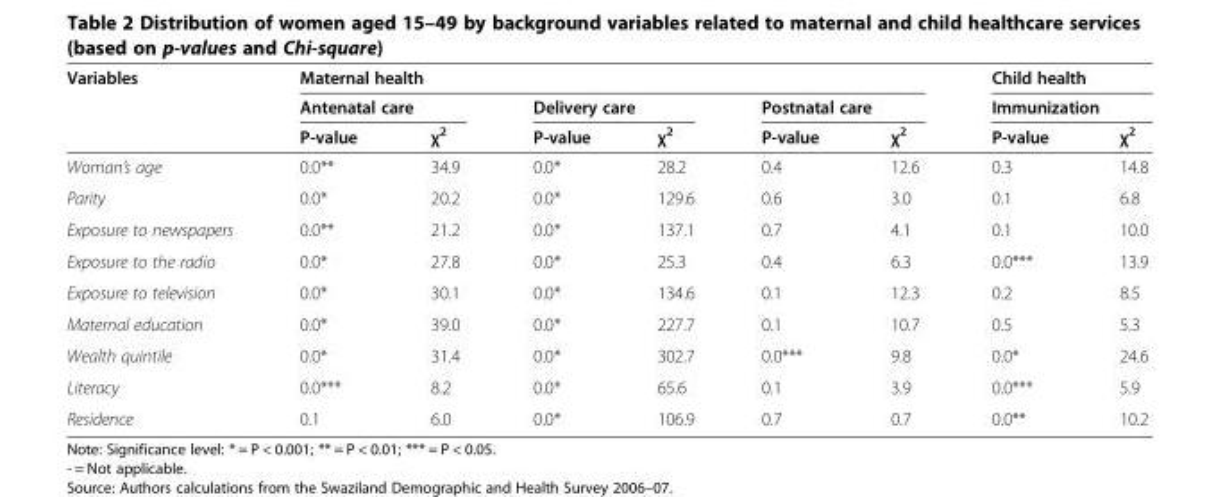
<table><thead><tr><td rowspan="3">Variables</td><td colspan="6">Maternal health</td><td rowspan="2" colspan="2">Child health Immunization</td></tr><tr><td colspan="2">Antenatal care</td><td colspan="2">Delivery care</td><td colspan="2">Postnatal care</td></tr><tr><td>P-value</td><td>χ<sup>2</sup></td><td>P-value</td><td>χ<sup>2</sup></td><td>P-value</td><td>χ<sup>2</sup></td><td>P-value</td><td>χ<sup>2</sup></td></tr></thead><tbody><tr><td>Woman’s age</td><td>0.0**</td><td>34.9</td><td>0.0*</td><td>28.2</td><td>0.4</td><td>12.6</td><td>0.3</td><td>14.8</td></tr><tr><td>Parity</td><td>0.0*</td><td>20.2</td><td>0.0*</td><td>129.6</td><td>0.6</td><td>3.0</td><td>0.1</td><td>6.8</td></tr><tr><td>Exposure to newspapers</td><td>0.0**</td><td>21.2</td><td>0.0*</td><td>137.1</td><td>0.7</td><td>4.1</td><td>0.1</td><td>10.0</td></tr><tr><td>Exposure to the radio</td><td>0.0*</td><td>27.8</td><td>0.0*</td><td>25.3</td><td>0.4</td><td>6.3</td><td>0.0***</td><td>13.9</td></tr><tr><td>Exposure to television</td><td>0.0*</td><td>30.1</td><td>0.0*</td><td>134.6</td><td>0.1</td><td>12.3</td><td>0.2</td><td>8.5</td></tr><tr><td>Maternal education</td><td>0.0*</td><td>39.0</td><td>0.0*</td><td>227.7</td><td>0.1</td><td>10.7</td><td>0.5</td><td>5.3</td></tr><tr><td>Wealth quintile</td><td>0.0*</td><td>31.4</td><td>0.0*</td><td>302.7</td><td>0.0***</td><td>9.8</td><td>0.0*</td><td>24.6</td></tr><tr><td>Literacy</td><td>0.0***</td><td>8.2</td><td>0.0*</td><td>65.6</td><td>0.1</td><td>3.9</td><td>0.0***</td><td>5.9</td></tr><tr><td>Residence</td><td>0.1</td><td>6.0</td><td>0.0*</td><td>106.9</td><td>0.7</td><td>0.7</td><td>0.0**</td><td>10.2</td></tr></tbody></table>